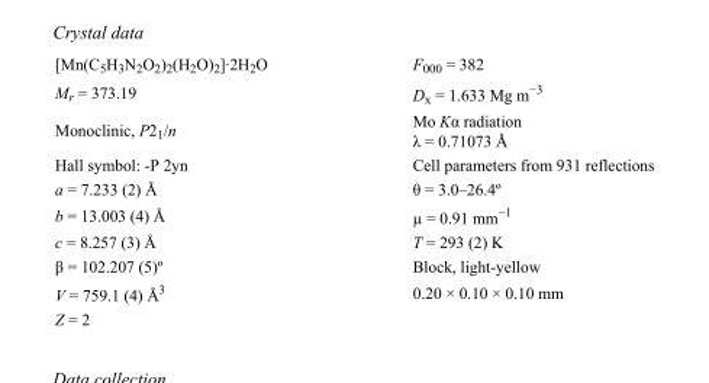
<table><tbody><tr><td>[Mn(C<sub>5</sub>H<sub>3</sub>N<sub>2</sub>O<sub>2</sub>)<sub>2</sub>(H<sub>2</sub>O)<sub>2</sub>]·2H<sub>2</sub>O</td><td>F<sub>000</sub> = 382</td></tr><tr><td>M<sub>r</sub> = 373.19</td><td>D<sub>x</sub> = 1.633 Mg m<sup>−3</sup></td></tr><tr><td>Monoclinic, P2<sub>1</sub>/n</td><td>Mo Kα radiation λ = 0.71073 Å</td></tr><tr><td>Hall symbol: -P 2yn</td><td>Cell parameters from 931 reflections</td></tr><tr><td>a = 7.233 (2) Å</td><td>θ = 3.0–26.4º</td></tr><tr><td>b = 13.003 (4) Å</td><td>µ = 0.91 mm<sup>−1</sup></td></tr><tr><td>c = 8.257 (3) Å</td><td>T = 293 (2) K</td></tr><tr><td>β = 102.207 (5)º</td><td>Block, light-yellow</td></tr><tr><td>V = 759.1 (4) Å<sup>3</sup></td><td>0.20 × 0.10 × 0.10 mm</td></tr><tr><td>Z = 2</td><td></td></tr></tbody></table>